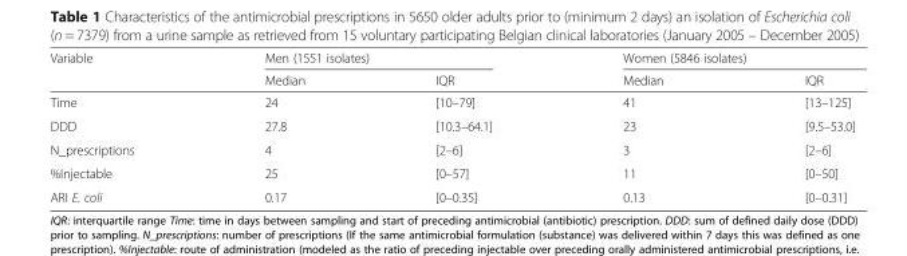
<table><thead><tr><td rowspan="2">Variable</td><td colspan="2">Men (1551 isolates)</td><td colspan="2">Women (5846 isolates)</td></tr><tr><td>Median</td><td>IQR</td><td>Median</td><td>IQR</td></tr></thead><tbody><tr><td>Time</td><td>24</td><td>[10–79]</td><td>41</td><td>[13–125]</td></tr><tr><td>DDD</td><td>27.8</td><td>[10.3–64.1]</td><td>23</td><td>[9.5–53.0]</td></tr><tr><td>N_prescriptions</td><td>4</td><td>[2–6]</td><td>3</td><td>[2–6]</td></tr><tr><td>%Injectable</td><td>25</td><td>[0–57]</td><td>11</td><td>[0–50]</td></tr><tr><td>ARI E. coli</td><td>0.17</td><td>[0–0.35]</td><td>0.13</td><td>[0–0.31]</td></tr></tbody></table>